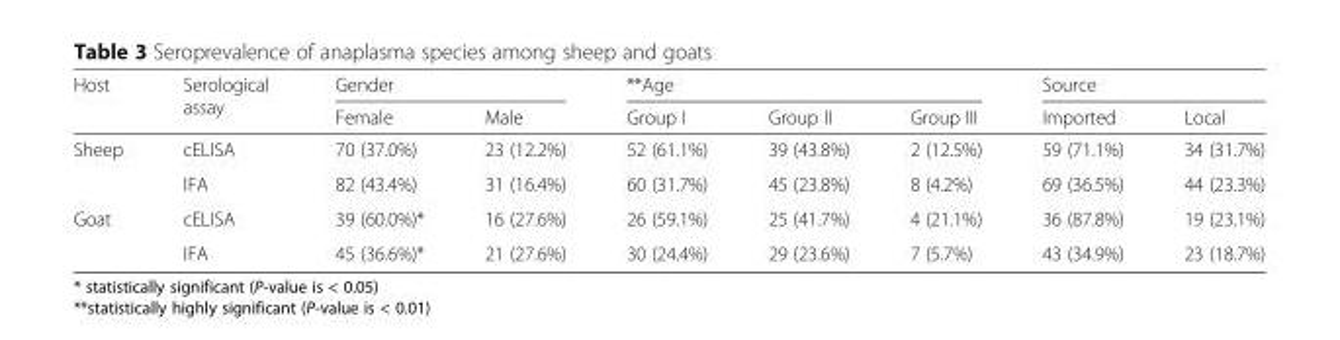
<table><thead><tr><td rowspan="2">Host</td><td rowspan="2">Serological assay</td><td colspan="2">Gender</td><td colspan="3">**Age</td><td colspan="2">Source</td></tr><tr><td>Female</td><td>Male</td><td>Group I</td><td>Group II</td><td>Group III</td><td>Imported</td><td>Local</td></tr></thead><tbody><tr><td rowspan="2">Sheep</td><td>cELISA</td><td>70 (37.0%)</td><td>23 (12.2%)</td><td>52 (61.1%)</td><td>39 (43.8%)</td><td>2 (12.5%)</td><td>59 (71.1%)</td><td>34 (31.7%)</td></tr><tr><td>IFA</td><td>82 (43.4%)</td><td>31 (16.4%)</td><td>60 (31.7%)</td><td>45 (23.8%)</td><td>8 (4.2%)</td><td>69 (36.5%)</td><td>44 (23.3%)</td></tr><tr><td rowspan="2">Goat</td><td>cELISA</td><td>39 (60.0%)*</td><td>16 (27.6%)</td><td>26 (59.1%)</td><td>25 (41.7%)</td><td>4 (21.1%)</td><td>36 (87.8%)</td><td>19 (23.1%)</td></tr><tr><td>IFA</td><td>45 (36.6%)*</td><td>21 (27.6%)</td><td>30 (24.4%)</td><td>29 (23.6%)</td><td>7 (5.7%)</td><td>43 (34.9%)</td><td>23 (18.7%)</td></tr></tbody></table>